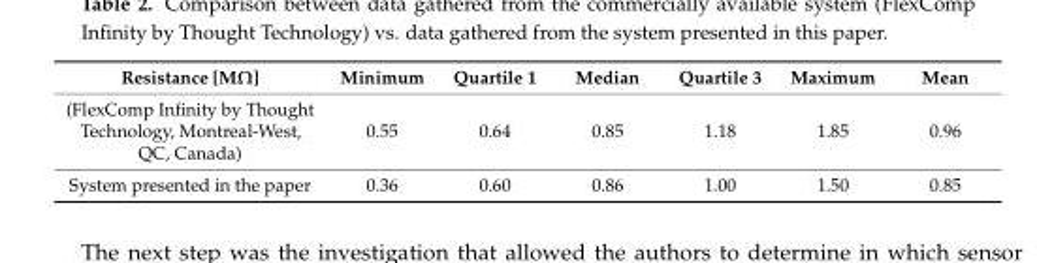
<table><thead><tr><td>Resistance [MΩ]</td><td>Minimum</td><td>Quartile 1</td><td>Median</td><td>Quartile 3</td><td>Maximum</td><td>Mean</td></tr></thead><tbody><tr><td>(FlexComp Infinity by Thought Technology, Montreal-West, QC, Canada)</td><td>0.55</td><td>0.64</td><td>0.85</td><td>1.18</td><td>1.85</td><td>0.96</td></tr><tr><td>System presented in the paper</td><td>0.36</td><td>0.60</td><td>0.86</td><td>1.00</td><td>1.50</td><td>0.85</td></tr></tbody></table>